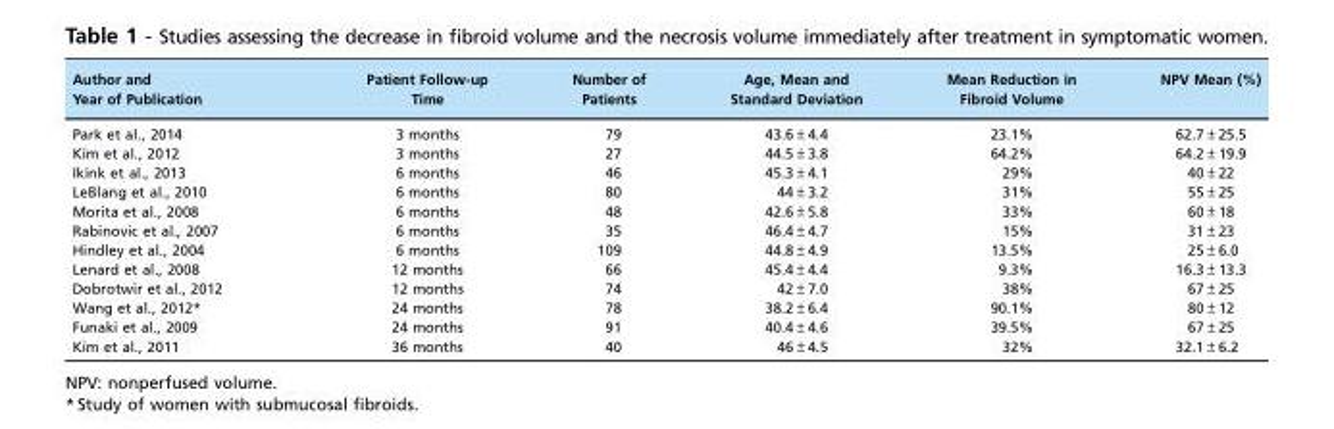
<table><thead><tr><td>Author and Year of Publication</td><td>Patient Follow-up Time</td><td>Number of Patients</td><td>Age, Mean and Standard Deviation</td><td>Mean Reduction in Fibroid Volume</td><td>NPV Mean (%)</td></tr></thead><tbody><tr><td>Park et al., 2014</td><td>3 months</td><td>79</td><td>43.6±4.4</td><td>23.1%</td><td>62.7±25.5</td></tr><tr><td>Kim et al., 2012</td><td>3 months</td><td>27</td><td>44.5±3.8</td><td>64.2%</td><td>64.2±19.9</td></tr><tr><td>Ikink et al., 2013</td><td>6 months</td><td>46</td><td>45.3±4.1</td><td>29%</td><td>40±22</td></tr><tr><td>LeBlang et al., 2010</td><td>6 months</td><td>80</td><td>44±3.2</td><td>31%</td><td>55±25</td></tr><tr><td>Morita et al., 2008</td><td>6 months</td><td>48</td><td>42.6±5.8</td><td>33%</td><td>60±18</td></tr><tr><td>Rabinovic et al., 2007</td><td>6 months</td><td>35</td><td>46.4±4.7</td><td>15%</td><td>31±23</td></tr><tr><td>Hindley et al., 2004</td><td>6 months</td><td>109</td><td>44.8±4.9</td><td>13.5%</td><td>25±6.0</td></tr><tr><td>Lenard et al., 2008</td><td>12 months</td><td>66</td><td>45.4±4.4</td><td>9.3%</td><td>16.3±13.3</td></tr><tr><td>Dobrotwir et al., 2012</td><td>12 months</td><td>74</td><td>42±7.0</td><td>38%</td><td>67±25</td></tr><tr><td>Wang et al., 2012*</td><td>24 months</td><td>78</td><td>38.2±6.4</td><td>90.1%</td><td>80±12</td></tr><tr><td>Funaki et al., 2009</td><td>24 months</td><td>91</td><td>40.4±4.6</td><td>39.5%</td><td>67±25</td></tr><tr><td>Kim et al., 2011</td><td>36 months</td><td>40</td><td>46±4.5</td><td>32%</td><td>32.1±6.2</td></tr></tbody></table>